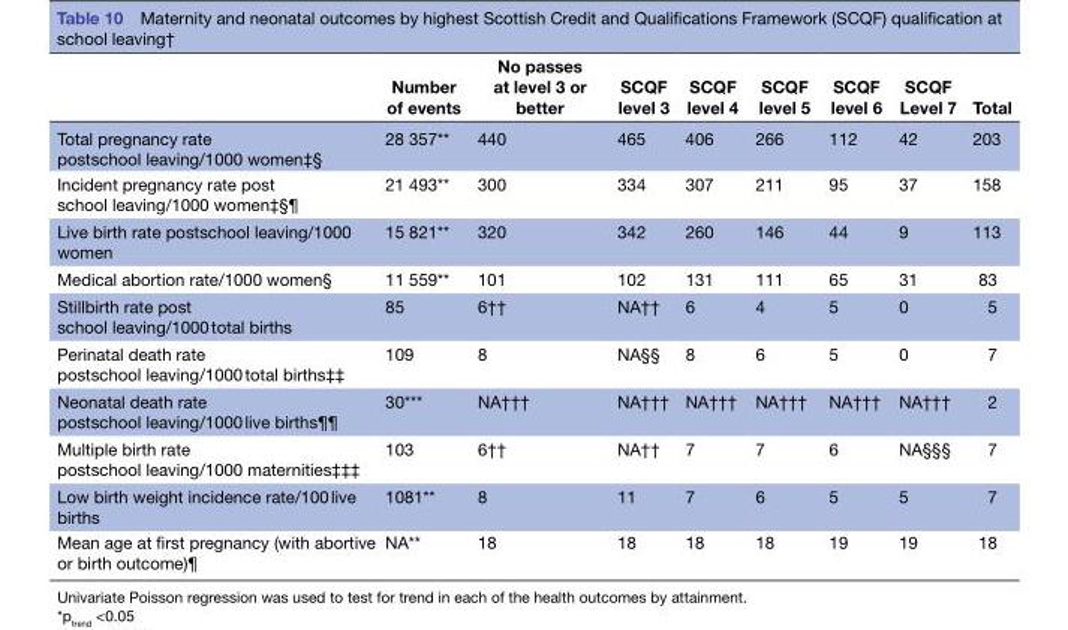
<table><thead><tr><td></td><td>Number of events</td><td>No passes at level 3 or better</td><td>SCQF level 3</td><td>SCQF level 4</td><td>SCQF level 5</td><td>SCQF level 6</td><td>SCQF Level 7</td><td>Total</td></tr></thead><tbody><tr><td>Total pregnancy rate postschool leaving/1000 women‡§</td><td>28 357**</td><td>440</td><td>465</td><td>406</td><td>266</td><td>112</td><td>42</td><td>203</td></tr><tr><td>Incident pregnancy rate post school leaving/1000 women‡§¶</td><td>21 493**</td><td>300</td><td>334</td><td>307</td><td>211</td><td>95</td><td>37</td><td>158</td></tr><tr><td>Live birth rate postschool leaving/1000 women</td><td>15 821**</td><td>320</td><td>342</td><td>260</td><td>146</td><td>44</td><td>9</td><td>113</td></tr><tr><td>Medical abortion rate/1000 women§</td><td>11 559**</td><td>101</td><td>102</td><td>131</td><td>111</td><td>65</td><td>31</td><td>83</td></tr><tr><td>Stillbirth rate post school leaving/1000 total births</td><td>85</td><td>6††</td><td>NA††</td><td>6</td><td>4</td><td>5</td><td>0</td><td>5</td></tr><tr><td>Perinatal death rate postschool leaving/1000 total births‡‡</td><td>109</td><td>8</td><td>NA§§</td><td>8</td><td>6</td><td>5</td><td>0</td><td>7</td></tr><tr><td>Neonatal death rate postschool leaving/1000 live births¶¶</td><td>30***</td><td>NA†††</td><td>NA†††</td><td>NA†††</td><td>NA†††</td><td>NA†††</td><td>NA†††</td><td>2</td></tr><tr><td>Multiple birth rate postschool leaving/1000 maternities‡‡‡</td><td>103</td><td>6††</td><td>NA††</td><td>7</td><td>7</td><td>6</td><td>NA§§§</td><td>7</td></tr><tr><td>Low birth weight incidence rate/100 live births</td><td>1081**</td><td>8</td><td>11</td><td>7</td><td>6</td><td>5</td><td>5</td><td>7</td></tr><tr><td>Mean age at first pregnancy (with abortive or birth outcome)¶</td><td>NA**</td><td>18</td><td>18</td><td>18</td><td>18</td><td>19</td><td>19</td><td>18</td></tr></tbody></table>